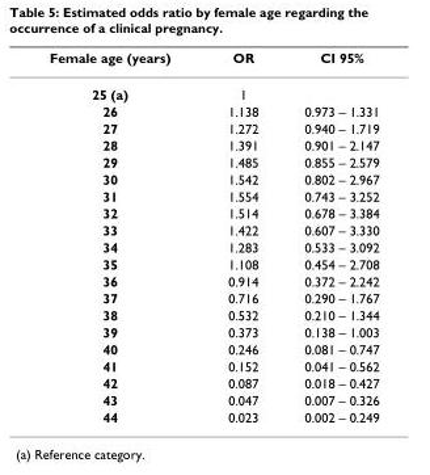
<table><thead><tr><td>Female age (years)</td><td>OR</td><td>CI 95%</td></tr></thead><tbody><tr><td>25 (a)</td><td>1</td><td></td></tr><tr><td>26</td><td>1.138</td><td>0.973 – 1.331</td></tr><tr><td>27</td><td>1.272</td><td>0.940 – 1.719</td></tr><tr><td>28</td><td>1.391</td><td>0.901 – 2.147</td></tr><tr><td>29</td><td>1.485</td><td>0.855 – 2.579</td></tr><tr><td>30</td><td>1.542</td><td>0.802 – 2.967</td></tr><tr><td>31</td><td>1.554</td><td>0.743 – 3.252</td></tr><tr><td>32</td><td>1.514</td><td>0.678 – 3.384</td></tr><tr><td>33</td><td>1.422</td><td>0.607 – 3.330</td></tr><tr><td>34</td><td>1.283</td><td>0.533 – 3.092</td></tr><tr><td>35</td><td>1.108</td><td>0.454 – 2.708</td></tr><tr><td>36</td><td>0.914</td><td>0.372 – 2.242</td></tr><tr><td>37</td><td>0.716</td><td>0.290 – 1.767</td></tr><tr><td>38</td><td>0.532</td><td>0.210 – 1.344</td></tr><tr><td>39</td><td>0.373</td><td>0.138 – 1.003</td></tr><tr><td>40</td><td>0.246</td><td>0.081 – 0.747</td></tr><tr><td>41</td><td>0.152</td><td>0.041 – 0.562</td></tr><tr><td>42</td><td>0.087</td><td>0.018 – 0.427</td></tr><tr><td>43</td><td>0.047</td><td>0.007 – 0.326</td></tr><tr><td>44</td><td>0.023</td><td>0.002 – 0.249</td></tr></tbody></table>